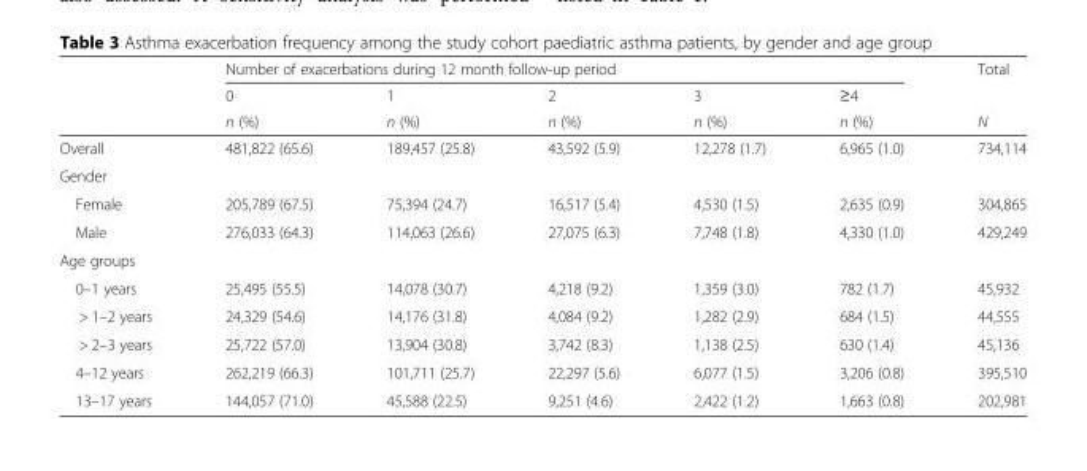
<table><thead><tr><td rowspan="3"></td><td colspan="5">Number of exacerbations during 12 month follow-up period</td><td rowspan="3">Total N</td></tr><tr><td rowspan="2">0 n (%)</td><td rowspan="2">1 n (%)</td><td rowspan="2">2 n (%)</td><td rowspan="2">3 n (%)</td><td rowspan="2">≥4 n (%)</td></tr><tr></tr></thead><tbody><tr><td>Overall</td><td>481,822 (65.6)</td><td>189,457 (25.8)</td><td>43,592 (5.9)</td><td>12,278 (1.7)</td><td>6,965 (1.0)</td><td>734,114</td></tr><tr><td colspan="7">Gender</td></tr><tr><td>Female</td><td>205,789 (67.5)</td><td>75,394 (24.7)</td><td>16,517 (5.4)</td><td>4,530 (1.5)</td><td>2,635 (0.9)</td><td>304,865</td></tr><tr><td>Male</td><td>276,033 (64.3)</td><td>114,063 (26.6)</td><td>27,075 (6.3)</td><td>7,748 (1.8)</td><td>4,330 (1.0)</td><td>429,249</td></tr><tr><td colspan="7">Age groups</td></tr><tr><td>0–1 years</td><td>25,495 (55.5)</td><td>14,078 (30.7)</td><td>4,218 (9.2)</td><td>1,359 (3.0)</td><td>782 (1.7)</td><td>45,932</td></tr><tr><td>&gt; 1–2 years</td><td>24,329 (54.6)</td><td>14,176 (31.8)</td><td>4,084 (9.2)</td><td>1,282 (2.9)</td><td>684 (1.5)</td><td>44,555</td></tr><tr><td>&gt; 2–3 years</td><td>25,722 (57.0)</td><td>13,904 (30.8)</td><td>3,742 (8.3)</td><td>1,138 (2.5)</td><td>630 (1.4)</td><td>45,136</td></tr><tr><td>4–12 years</td><td>262,219 (66.3)</td><td>101,711 (25.7)</td><td>22,297 (5.6)</td><td>6,077 (1.5)</td><td>3,206 (0.8)</td><td>395,510</td></tr><tr><td>13–17 years</td><td>144,057 (71.0)</td><td>45,588 (22.5)</td><td>9,251 (4.6)</td><td>2,422 (1.2)</td><td>1,663 (0.8)</td><td>202,981</td></tr></tbody></table>